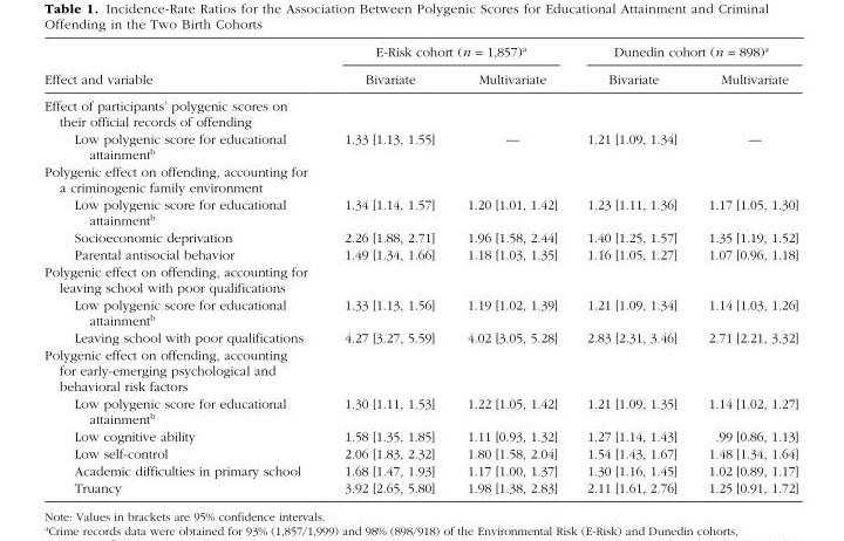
<table><thead><tr><td rowspan="2">Effect and variable</td><td colspan="2">E-Risk cohort (n = 1,857)<sup>a</sup></td><td colspan="2">Dunedin cohort (n = 898)<sup>a</sup></td></tr><tr><td>Bivariate</td><td>Multivariate</td><td>Bivariate</td><td>Multivariate</td></tr></thead><tbody><tr><td colspan="5">Effect of participants’ polygenic scores on their official records of offending</td></tr><tr><td>Low polygenic score for educational attainment<sup>b</sup></td><td>1.33 [1.13, 1.55]</td><td>—</td><td>1.21 [1.09, 1.34]</td><td>—</td></tr><tr><td colspan="5">Polygenic effect on offending, accounting for a criminogenic family environment</td></tr><tr><td>Low polygenic score for educational attainment<sup>b</sup></td><td>1.34 [1.14, 1.57]</td><td>1.20 [1.01, 1.42]</td><td>1.23 [1.11, 1.36]</td><td>1.17 [1.05, 1.30]</td></tr><tr><td>Socioeconomic deprivation</td><td>2.26 [1.88, 2.71]</td><td>1.96 [1.58, 2.44]</td><td>1.40 [1.25, 1.57]</td><td>1.35 [1.19, 1.52]</td></tr><tr><td>Parental antisocial behavior</td><td>1.49 [1.34, 1.66]</td><td>1.18 [1.03, 1.35]</td><td>1.16 [1.05, 1.27]</td><td>1.07 [0.96, 1.18]</td></tr><tr><td colspan="5">Polygenic effect on offending, accounting for leaving school with poor qualifications</td></tr><tr><td>Low polygenic score for educational attainment<sup>b</sup></td><td>1.33 [1.13, 1.56]</td><td>1.19 [1.02, 1.39]</td><td>1.21 [1.09, 1.34]</td><td>1.14 [1.03, 1.26]</td></tr><tr><td>Leaving school with poor qualifications</td><td>4.27 [3.27, 5.59]</td><td>4.02 [3.05, 5.28]</td><td>2.83 [2.31, 3.46]</td><td>2.71 [2.21, 3.32]</td></tr><tr><td colspan="5">Polygenic effect on offending, accounting for early-emerging psychological and behavioral risk factors</td></tr><tr><td>Low polygenic score for educational attainment<sup>b</sup></td><td>1.30 [1.11, 1.53]</td><td>1.22 [1.05, 1.42]</td><td>1.21 [1.09, 1.35]</td><td>1.14 [1.02, 1.27]</td></tr><tr><td>Low cognitive ability</td><td>1.58 [1.35, 1.85]</td><td>1.11 [0.93, 1.32]</td><td>1.27 [1.14, 1.43]</td><td>.99 [0.86, 1.13]</td></tr><tr><td>Low self-control</td><td>2.06 [1.83, 2.32]</td><td>1.80 [1.58, 2.04]</td><td>1.54 [1.43, 1.67]</td><td>1.48 [1.34, 1.64]</td></tr><tr><td>Academic difficulties in primary school</td><td>1.68 [1.47, 1.93]</td><td>1.17 [1.00, 1.37]</td><td>1.30 [1.16, 1.45]</td><td>1.02 [0.89, 1.17]</td></tr><tr><td>Truancy</td><td>3.92 [2.65, 5.80]</td><td>1.98 [1.38, 2.83]</td><td>2.11 [1.61, 2.76]</td><td>1.25 [0.91, 1.72]</td></tr></tbody></table>